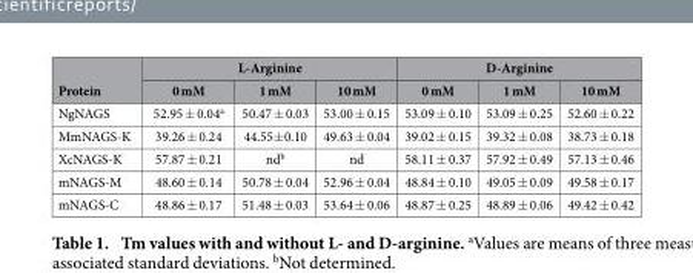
<table><thead><tr><td rowspan="2">Protein</td><td colspan="3">L-Arginine</td><td colspan="3">D-Arginine</td></tr><tr><td>0 mM</td><td>1 mM</td><td>10 mM</td><td>0 mM</td><td>1 mM</td><td>10 mM</td></tr></thead><tbody><tr><td>NgNAGS</td><td>52.95 ± 0.04<sup>a</sup></td><td>50.47 ± 0.03</td><td>53.00 ± 0.15</td><td>53.09 ± 0.10</td><td>53.09 ± 0.25</td><td>52.60 ± 0.22</td></tr><tr><td>MmNAGS-K</td><td>39.26 ± 0.24</td><td>44.55± 0.10</td><td>49.63 ± 0.04</td><td>39.02 ± 0.15</td><td>39.32 ± 0.08</td><td>38.73 ± 0.18</td></tr><tr><td>XcNAGS-K</td><td>57.87 ± 0.21</td><td>nd<sup>b</sup></td><td>nd</td><td>58.11 ± 0.37</td><td>57.92 ± 0.49</td><td>57.13 ± 0.46</td></tr><tr><td>mNAGS-M</td><td>48.60 ± 0.14</td><td>50.78 ± 0.04</td><td>52.96 ± 0.04</td><td>48.84 ± 0.10</td><td>49.05 ± 0.09</td><td>49.58 ± 0.17</td></tr><tr><td>mNAGS-C</td><td>48.86 ± 0.17</td><td>51.48 ± 0.03</td><td>53.64 ± 0.06</td><td>48.87 ± 0.25</td><td>48.89 ± 0.06</td><td>49.42 ± 0.42</td></tr></tbody></table>